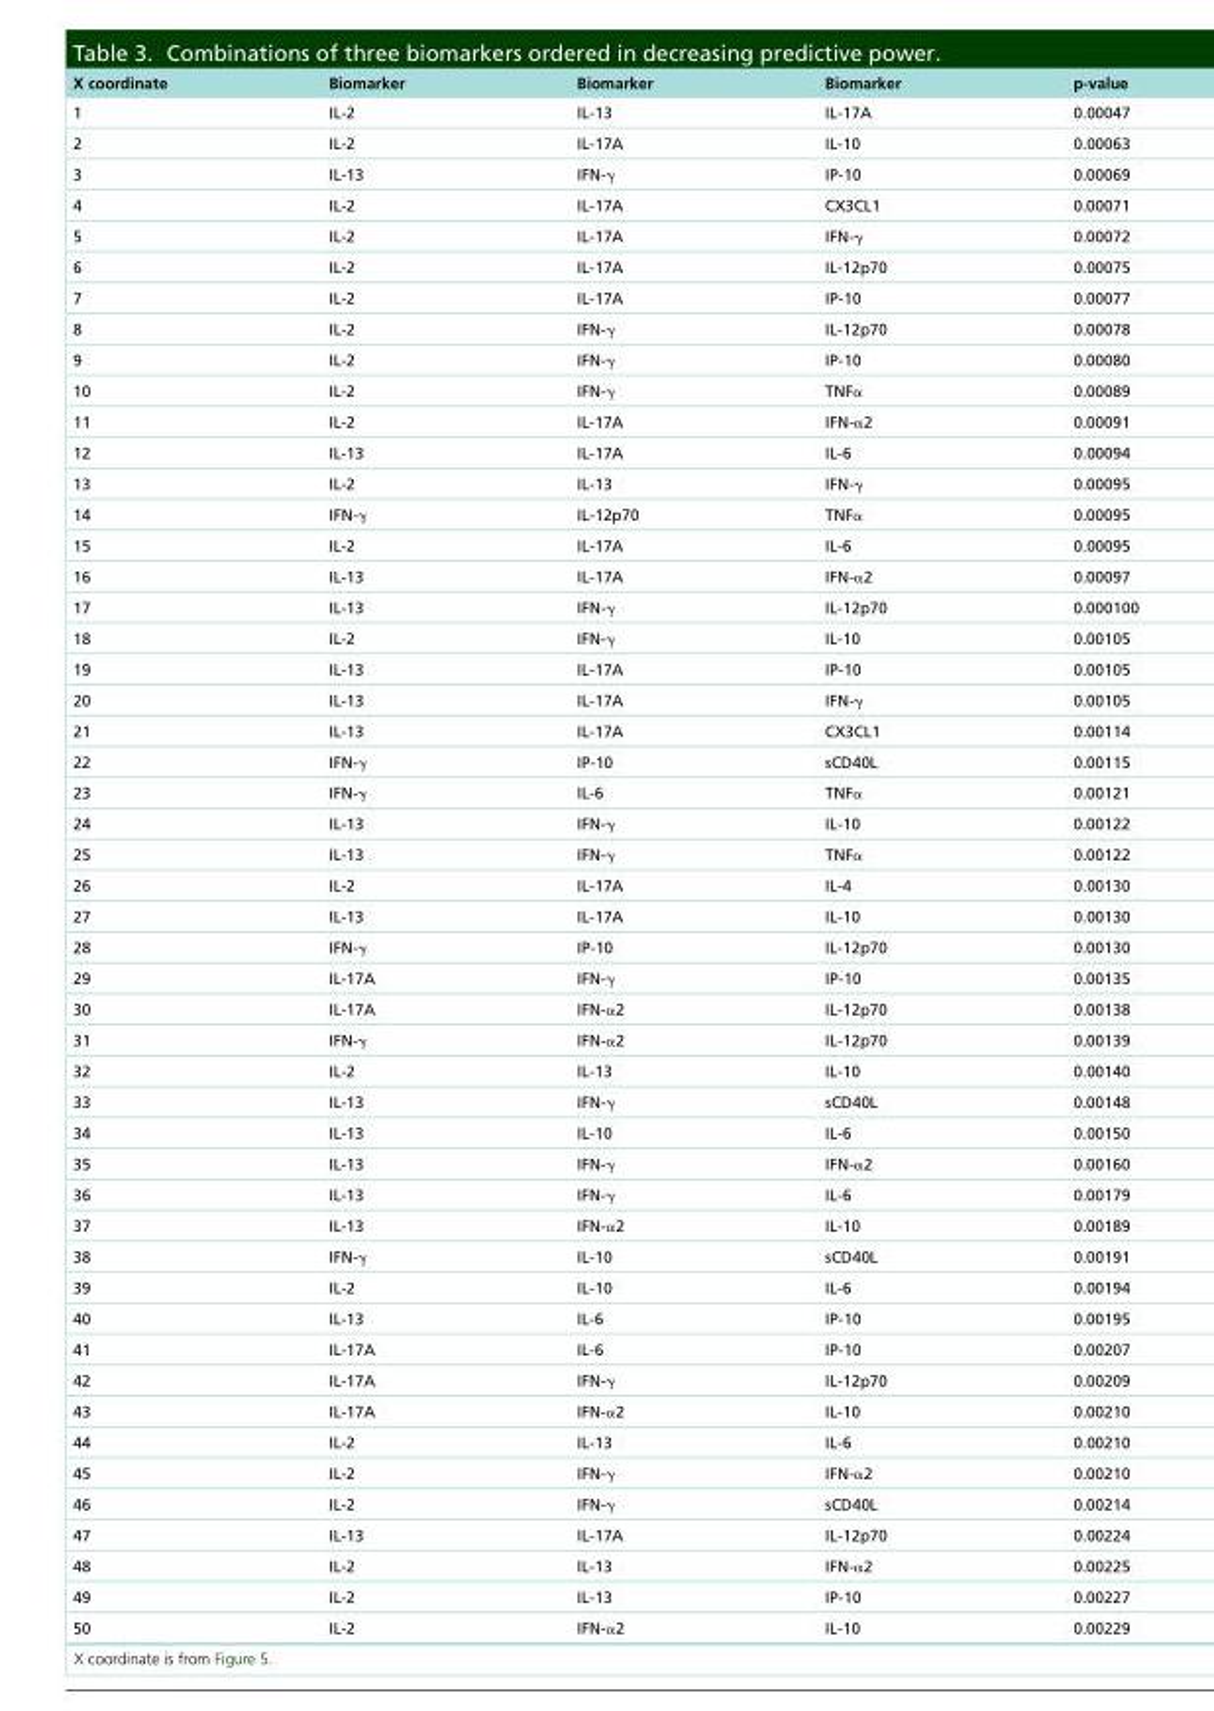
<table><thead><tr><td>X coordinate</td><td>Biomarker</td><td>Biomarker</td><td>Biomarker</td><td>p-value</td></tr></thead><tbody><tr><td>1</td><td>IL-2</td><td>IL-13</td><td>IL-17A</td><td>0.00047</td></tr><tr><td>2</td><td>IL-2</td><td>IL-17A</td><td>IL-10</td><td>0.00063</td></tr><tr><td>3</td><td>IL-13</td><td>IFN-γ</td><td>IP-10</td><td>0.00069</td></tr><tr><td>4</td><td>IL-2</td><td>IL-17A</td><td>CX3CL1</td><td>0.00071</td></tr><tr><td>5</td><td>IL-2</td><td>IL-17A</td><td>IFN-γ</td><td>0.00072</td></tr><tr><td>6</td><td>IL-2</td><td>IL-17A</td><td>IL-12p70</td><td>0.00075</td></tr><tr><td>7</td><td>IL-2</td><td>IL-17A</td><td>IP-10</td><td>0.00077</td></tr><tr><td>8</td><td>IL-2</td><td>IFN-γ</td><td>IL-12p70</td><td>0.00078</td></tr><tr><td>9</td><td>IL-2</td><td>IFN-γ</td><td>IP-10</td><td>0.00080</td></tr><tr><td>10</td><td>IL-2</td><td>IFN-γ</td><td>TNFα</td><td>0.00089</td></tr><tr><td>11</td><td>IL-2</td><td>IL-17A</td><td>IFN-α2</td><td>0.00091</td></tr><tr><td>12</td><td>IL-13</td><td>IL-17A</td><td>IL-6</td><td>0.00094</td></tr><tr><td>13</td><td>IL-2</td><td>IL-13</td><td>IFN-γ</td><td>0.00095</td></tr><tr><td>14</td><td>IFN-γ</td><td>IL-12p70</td><td>TNFα</td><td>0.00095</td></tr><tr><td>15</td><td>IL-2</td><td>IL-17A</td><td>IL-6</td><td>0.00095</td></tr><tr><td>16</td><td>IL-13</td><td>IL-17A</td><td>IFN-α2</td><td>0.00097</td></tr><tr><td>17</td><td>IL-13</td><td>IFN-γ</td><td>IL-12p70</td><td>0.000100</td></tr><tr><td>18</td><td>IL-2</td><td>IFN-γ</td><td>IL-10</td><td>0.00105</td></tr><tr><td>19</td><td>IL-13</td><td>IL-17A</td><td>IP-10</td><td>0.00105</td></tr><tr><td>20</td><td>IL-13</td><td>IL-17A</td><td>IFN-γ</td><td>0.00105</td></tr><tr><td>21</td><td>IL-13</td><td>IL-17A</td><td>CX3CL1</td><td>0.00114</td></tr><tr><td>22</td><td>IFN-γ</td><td>IP-10</td><td>sCD40L</td><td>0.00115</td></tr><tr><td>23</td><td>IFN-γ</td><td>IL-6</td><td>TNFα</td><td>0.00121</td></tr><tr><td>24</td><td>IL-13</td><td>IFN-γ</td><td>IL-10</td><td>0.00122</td></tr><tr><td>25</td><td>IL-13</td><td>IFN-γ</td><td>TNFα</td><td>0.00122</td></tr><tr><td>26</td><td>IL-2</td><td>IL-17A</td><td>IL-4</td><td>0.00130</td></tr><tr><td>27</td><td>IL-13</td><td>IL-17A</td><td>IL-10</td><td>0.00130</td></tr><tr><td>28</td><td>IFN-γ</td><td>IP-10</td><td>IL-12p70</td><td>0.00130</td></tr><tr><td>29</td><td>IL-17A</td><td>IFN-γ</td><td>IP-10</td><td>0.00135</td></tr><tr><td>30</td><td>IL-17A</td><td>IFN-α2</td><td>IL-12p70</td><td>0.00138</td></tr><tr><td>31</td><td>IFN-γ</td><td>IFN-α2</td><td>IL-12p70</td><td>0.00139</td></tr><tr><td>32</td><td>IL-2</td><td>IL-13</td><td>IL-10</td><td>0.00140</td></tr><tr><td>33</td><td>IL-13</td><td>IFN-γ</td><td>sCD40L</td><td>0.00148</td></tr><tr><td>34</td><td>IL-13</td><td>IL-10</td><td>IL-6</td><td>0.00150</td></tr><tr><td>35</td><td>IL-13</td><td>IFN-γ</td><td>IFN-α2</td><td>0.00160</td></tr><tr><td>36</td><td>IL-13</td><td>IFN-γ</td><td>IL-6</td><td>0.00179</td></tr><tr><td>37</td><td>IL-13</td><td>IFN-α2</td><td>IL-10</td><td>0.00189</td></tr><tr><td>38</td><td>IFN-γ</td><td>IL-10</td><td>sCD40L</td><td>0.00191</td></tr><tr><td>39</td><td>IL-2</td><td>IL-10</td><td>IL-6</td><td>0.00194</td></tr><tr><td>40</td><td>IL-13</td><td>IL-6</td><td>IP-10</td><td>0.00195</td></tr><tr><td>41</td><td>IL-17A</td><td>IL-6</td><td>IP-10</td><td>0.00207</td></tr><tr><td>42</td><td>IL-17A</td><td>IFN-γ</td><td>IL-12p70</td><td>0.00209</td></tr><tr><td>43</td><td>IL-17A</td><td>IFN-α2</td><td>IL-10</td><td>0.00210</td></tr><tr><td>44</td><td>IL-2</td><td>IL-13</td><td>IL-6</td><td>0.00210</td></tr><tr><td>45</td><td>IL-2</td><td>IFN-γ</td><td>IFN-α2</td><td>0.00210</td></tr><tr><td>46</td><td>IL-2</td><td>IFN-γ</td><td>sCD40L</td><td>0.00214</td></tr><tr><td>47</td><td>IL-13</td><td>IL-17A</td><td>IL-12p70</td><td>0.00224</td></tr><tr><td>48</td><td>IL-2</td><td>IL-13</td><td>IFN-α2</td><td>0.00225</td></tr><tr><td>49</td><td>IL-2</td><td>IL-13</td><td>IP-10</td><td>0.00227</td></tr><tr><td>50</td><td>IL-2</td><td>IFN-α2</td><td>IL-10</td><td>0.00229</td></tr></tbody></table>